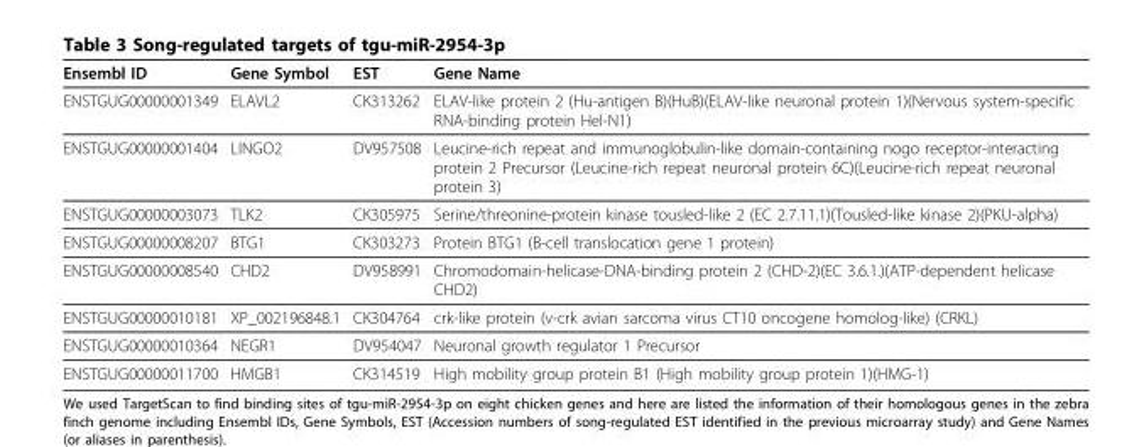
<table><thead><tr><td>Ensembl ID</td><td>Gene Symbol</td><td>EST</td><td>Gene Name</td></tr></thead><tbody><tr><td>ENSTGUG00000001349</td><td>ELAVL2</td><td>CK313262</td><td>ELAV-like protein 2 (Hu-antigen B)(HuB)(ELAV-like neuronal protein 1)(Nervous system-specific RNA-binding protein Hel-N1)</td></tr><tr><td>ENSTGUG00000001404</td><td>LINGO2</td><td>DV957508</td><td>Leucine-rich repeat and immunoglobulin-like domain-containing nogo receptor-interacting protein 2 Precursor (Leucine-rich repeat neuronal protein 6C)(Leucine-rich repeat neuronal protein 3)</td></tr><tr><td>ENSTGUG00000003073</td><td>TLK2</td><td>CK305975</td><td>Serine/threonine-protein kinase tousled-like 2 (EC 2.7.11.1)(Tousled-like kinase 2)(PKU-alpha)</td></tr><tr><td>ENSTGUG00000008207</td><td>BTG1</td><td>CK303273</td><td>Protein BTG1 (B-cell translocation gene 1 protein)</td></tr><tr><td>ENSTGUG00000008540</td><td>CHD2</td><td>DV958991</td><td>Chromodomain-helicase-DNA-binding protein 2 (CHD-2)(EC 3.6.1.)(ATP-dependent helicase CHD2)</td></tr><tr><td>ENSTGUG00000010181</td><td>XP_002196848.1</td><td>CK304764</td><td>crk-like protein (v-crk avian sarcoma virus CT10 oncogene homolog-like) (CRKL)</td></tr><tr><td>ENSTGUG00000010364</td><td>NEGR1</td><td>DV954047</td><td>Neuronal growth regulator 1 Precursor</td></tr><tr><td>ENSTGUG00000011700</td><td>HMGB1</td><td>CK314519</td><td>High mobility group protein B1 (High mobility group protein 1)(HMG-1)</td></tr></tbody></table>